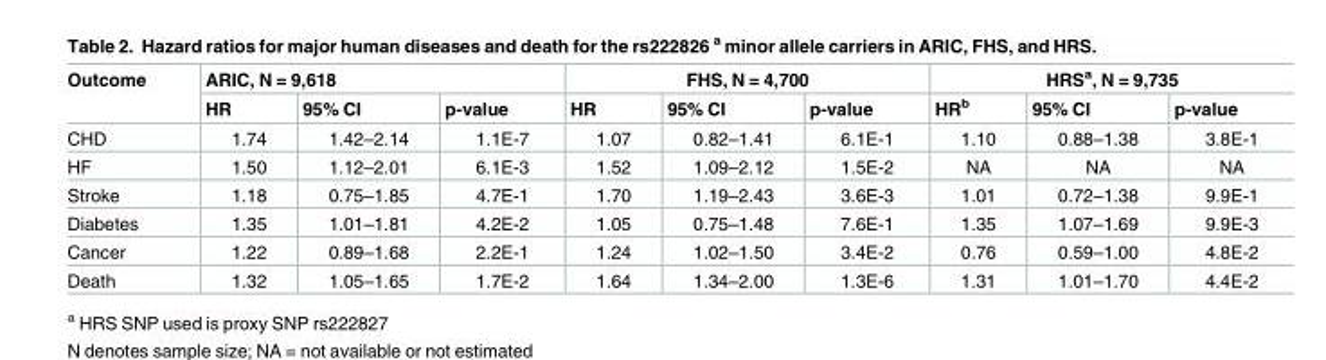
<table><thead><tr><td rowspan="2">Outcome</td><td colspan="3">ARIC, N = 9,618</td><td colspan="3">FHS, N = 4,700</td><td colspan="3">HRS<sup>a</sup>, N = 9,735</td></tr><tr><td>HR</td><td>95% CI</td><td>p-value</td><td>HR</td><td>95% CI</td><td>p-value</td><td>HR<sup>b</sup></td><td>95% CI</td><td>p-value</td></tr></thead><tbody><tr><td>CHD</td><td>1.74</td><td>1.42–2.14</td><td>1.1E-7</td><td>1.07</td><td>0.82–1.41</td><td>6.1E-1</td><td>1.10</td><td>0.88–1.38</td><td>3.8E-1</td></tr><tr><td>HF</td><td>1.50</td><td>1.12–2.01</td><td>6.1E-3</td><td>1.52</td><td>1.09–2.12</td><td>1.5E-2</td><td>NA</td><td>NA</td><td>NA</td></tr><tr><td>Stroke</td><td>1.18</td><td>0.75–1.85</td><td>4.7E-1</td><td>1.70</td><td>1.19–2.43</td><td>3.6E-3</td><td>1.01</td><td>0.72–1.38</td><td>9.9E-1</td></tr><tr><td>Diabetes</td><td>1.35</td><td>1.01–1.81</td><td>4.2E-2</td><td>1.05</td><td>0.75–1.48</td><td>7.6E-1</td><td>1.35</td><td>1.07–1.69</td><td>9.9E-3</td></tr><tr><td>Cancer</td><td>1.22</td><td>0.89–1.68</td><td>2.2E-1</td><td>1.24</td><td>1.02–1.50</td><td>3.4E-2</td><td>0.76</td><td>0.59–1.00</td><td>4.8E-2</td></tr><tr><td>Death</td><td>1.32</td><td>1.05–1.65</td><td>1.7E-2</td><td>1.64</td><td>1.34–2.00</td><td>1.3E-6</td><td>1.31</td><td>1.01–1.70</td><td>4.4E-2</td></tr></tbody></table>